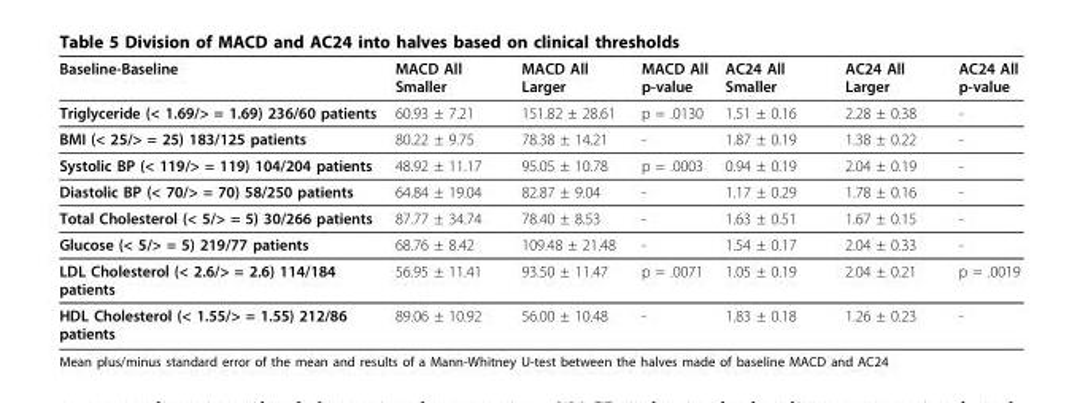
<table><thead><tr><td>Baseline-Baseline</td><td>MACD All Smaller</td><td>MACD All Larger</td><td>MACD All p-value</td><td>AC24 All Smaller</td><td>AC24 All Larger</td><td>AC24 All p-value</td></tr></thead><tbody><tr><td>Triglyceride (&lt; 1.69/&gt; = 1.69) 236/60 patients</td><td>60.93 ± 7.21</td><td>151.82 ± 28.61</td><td>p = .0130</td><td>1.51 ± 0.16</td><td>2.28 ± 0.38</td><td>-</td></tr><tr><td>BMI (&lt; 25/&gt; = 25) 183/125 patients</td><td>80.22 ± 9.75</td><td>78.38 ± 14.21</td><td>-</td><td>1.87 ± 0.19</td><td>1.38 ± 0.22</td><td>-</td></tr><tr><td>Systolic BP (&lt; 119/&gt; = 119) 104/204 patients</td><td>48.92 ± 11.17</td><td>95.05 ± 10.78</td><td>p = .0003</td><td>0.94 ± 0.19</td><td>2.04 ± 0.19</td><td>-</td></tr><tr><td>Diastolic BP (&lt; 70/&gt; = 70) 58/250 patients</td><td>64.84 ± 19.04</td><td>82.87 ± 9.04</td><td>-</td><td>1.17 ± 0.29</td><td>1.78 ± 0.16</td><td>-</td></tr><tr><td>Total Cholesterol (&lt; 5/&gt; = 5) 30/266 patients</td><td>87.77 ± 34.74</td><td>78.40 ± 8.53</td><td>-</td><td>1.63 ± 0.51</td><td>1.67 ± 0.15</td><td>-</td></tr><tr><td>Glucose (&lt; 5/&gt; = 5) 219/77 patients</td><td>68.76 ± 8.42</td><td>109.48 ± 21.48</td><td>-</td><td>1.54 ± 0.17</td><td>2.04 ± 0.33</td><td>-</td></tr><tr><td>LDL Cholesterol (&lt; 2.6/&gt; = 2.6) 114/184 patients</td><td>56.95 ± 11.41</td><td>93.50 ± 11.47</td><td>p = .0071</td><td>1.05 ± 0.19</td><td>2.04 ± 0.21</td><td>p = .0019</td></tr><tr><td>HDL Cholesterol (&lt; 1.55/&gt; = 1.55) 212/86 patients</td><td>89.06 ± 10.92</td><td>56.00 ± 10.48</td><td>-</td><td>1.83 ± 0.18</td><td>1.26 ± 0.23</td><td>-</td></tr></tbody></table>